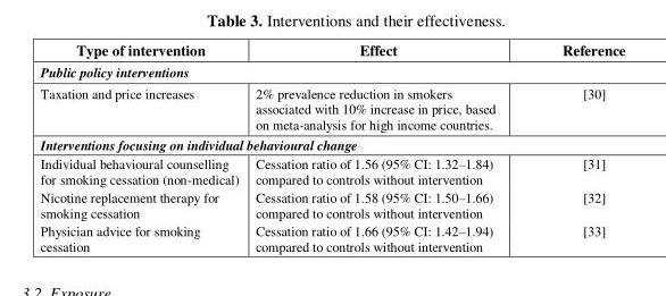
<table><thead><tr><td>Type of intervention</td><td>Effect</td><td>Reference</td></tr></thead><tbody><tr><td colspan="3">Public policy interventions</td></tr><tr><td>Taxation and price increases</td><td>2% prevalence reduction in smokers associated with 10% increase in price, based on meta-analysis for high income countries.</td><td>[30]</td></tr><tr><td colspan="3">Interventions focusing on individual behavioural change</td></tr><tr><td>Individual behavioural counselling for smoking cessation (non-medical) Nicotine replacement therapy for smoking cessation Physician advice for smoking cessation</td><td>Cessation ratio of 1.56 (95% CI: 1.32–1.84) compared to controls without intervention Cessation ratio of 1.58 (95% CI: 1.50–1.66) compared to controls without intervention Cessation ratio of 1.66 (95% CI: 1.42–1.94) compared to controls without intervention</td><td>[31] [32] [33]</td></tr></tbody></table>